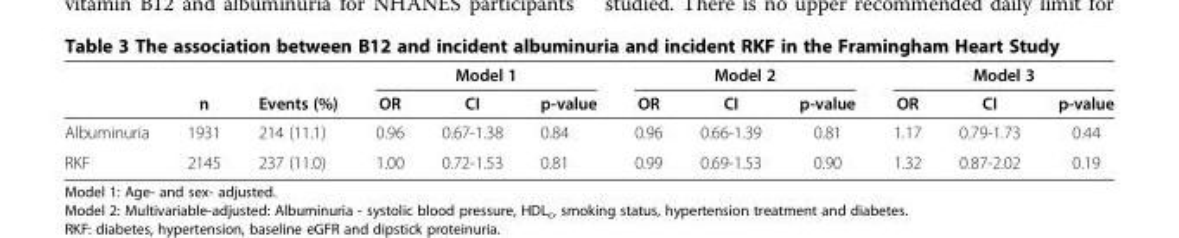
<table><thead><tr><td rowspan="2"></td><td rowspan="2">n</td><td rowspan="2">Events (%)</td><td colspan="3">Model 1</td><td colspan="3">Model 2</td><td colspan="3">Model 3</td></tr><tr><td>OR</td><td>CI</td><td>p-value</td><td>OR</td><td>CI</td><td>p-value</td><td>OR</td><td>CI</td><td>p-value</td></tr></thead><tbody><tr><td>Albuminuria</td><td>1931</td><td>214 (11.1)</td><td>0.96</td><td>0.67-1.38</td><td>0.84</td><td>0.96</td><td>0.66-1.39</td><td>0.81</td><td>1.17</td><td>0.79-1.73</td><td>0.44</td></tr><tr><td>RKF</td><td>2145</td><td>237 (11.0)</td><td>1.00</td><td>0.72-1.53</td><td>0.81</td><td>0.99</td><td>0.69-1.53</td><td>0.90</td><td>1.32</td><td>0.87-2.02</td><td>0.19</td></tr></tbody></table>